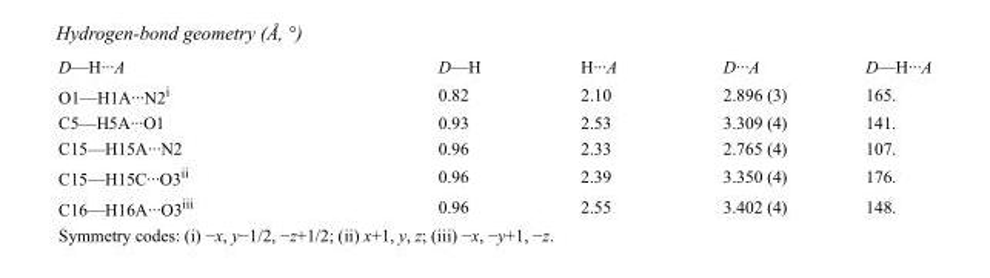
<table><tbody><tr><td>D—H···A</td><td>D—H</td><td>H···A</td><td>D···A</td><td>D—H···A</td></tr><tr><td>O1—H1A···N2<sup>i</sup></td><td>0.82</td><td>2.10</td><td>2.896 (3)</td><td>165.</td></tr><tr><td>C5—H5A···O1</td><td>0.93</td><td>2.53</td><td>3.309 (4)</td><td>141.</td></tr><tr><td>C15—H15A···N2</td><td>0.96</td><td>2.33</td><td>2.765 (4)</td><td>107.</td></tr><tr><td>C15—H15C···O3<sup>ii</sup></td><td>0.96</td><td>2.39</td><td>3.350 (4)</td><td>176.</td></tr><tr><td>C16—H16A···O3<sup>iii</sup></td><td>0.96</td><td>2.55</td><td>3.402 (4)</td><td>148.</td></tr></tbody></table>